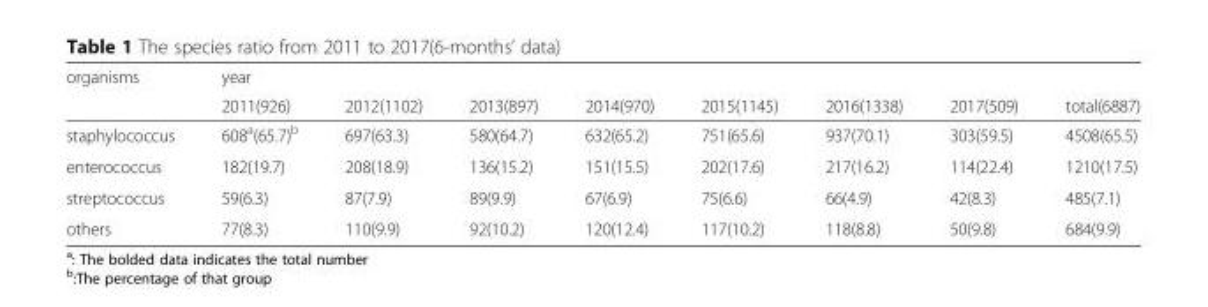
<table><thead><tr><td rowspan="2">organisms</td><td rowspan="2">year 2011(926)</td><td rowspan="2">2012(1102)</td><td rowspan="2">2013(897)</td><td rowspan="2">2014(970)</td><td rowspan="2">2015(1145)</td><td rowspan="2">2016(1338)</td><td rowspan="2">2017(509)</td><td rowspan="2">total(6887)</td></tr><tr></tr></thead><tbody><tr><td>staphylococcus</td><td>608<sup>a</sup>(65.7)<sup>b</sup></td><td>697(63.3)</td><td>580(64.7)</td><td>632(65.2)</td><td>751(65.6)</td><td>937(70.1)</td><td>303(59.5)</td><td>4508(65.5)</td></tr><tr><td>enterococcus</td><td>182(19.7)</td><td>208(18.9)</td><td>136(15.2)</td><td>151(15.5)</td><td>202(17.6)</td><td>217(16.2)</td><td>114(22.4)</td><td>1210(17.5)</td></tr><tr><td>streptococcus</td><td>59(6.3)</td><td>87(7.9)</td><td>89(9.9)</td><td>67(6.9)</td><td>75(6.6)</td><td>66(4.9)</td><td>42(8.3)</td><td>485(7.1)</td></tr><tr><td>others</td><td>77(8.3)</td><td>110(9.9)</td><td>92(10.2)</td><td>120(12.4)</td><td>117(10.2)</td><td>118(8.8)</td><td>50(9.8)</td><td>684(9.9)</td></tr></tbody></table>